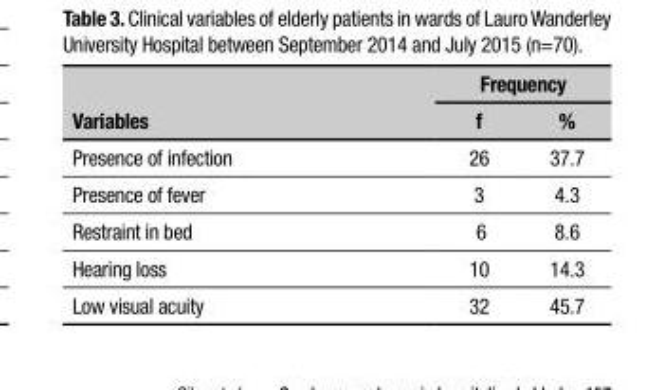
<table><thead><tr><td rowspan="2">Variables</td><td colspan="2">Frequency</td></tr><tr><td>f</td><td>%</td></tr></thead><tbody><tr><td>Presence of infection</td><td>26</td><td>37.7</td></tr><tr><td>Presence of fever</td><td>3</td><td>4.3</td></tr><tr><td>Restraint in bed</td><td>6</td><td>8.6</td></tr><tr><td>Hearing loss</td><td>10</td><td>14.3</td></tr><tr><td>Low visual acuity</td><td>32</td><td>45.7</td></tr></tbody></table>